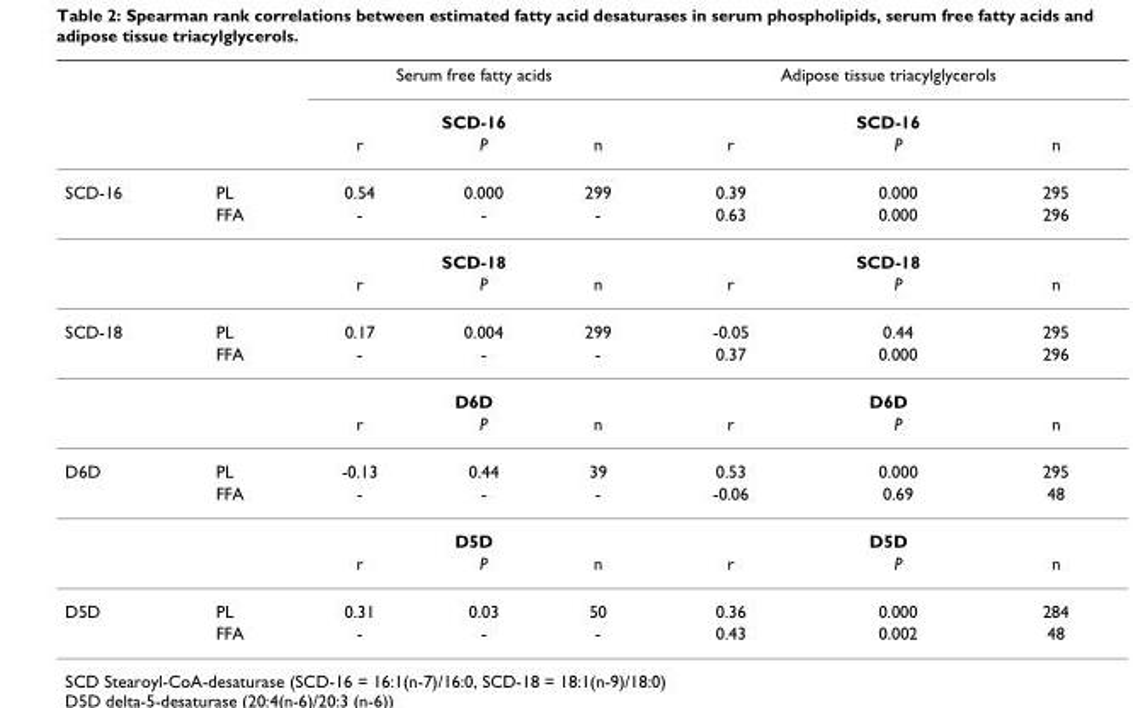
<table><thead><tr><td rowspan="3"></td><td rowspan="3"></td><td rowspan="2" colspan="3">Serum free fatty acids SCD-16</td><td rowspan="2" colspan="3">Adipose tissue triacylglycerols SCD-16</td></tr><tr></tr><tr><td>r</td><td>P</td><td>n</td><td>r</td><td>P</td><td>n</td></tr></thead><tbody><tr><td rowspan="4">SCD-16</td><td>PL</td><td>0.54</td><td>0.000</td><td>299</td><td>0.39</td><td>0.000</td><td>295</td></tr><tr><td>FFA</td><td>-</td><td>-</td><td>-</td><td>0.63</td><td>0.000</td><td>296</td></tr><tr><td></td><td colspan="3">SCD-18</td><td colspan="3">SCD-18</td></tr><tr><td></td><td>r</td><td>P</td><td>n</td><td>r</td><td>P</td><td>n</td></tr><tr><td rowspan="4">SCD-18</td><td>PL</td><td>0.17</td><td>0.004</td><td>299</td><td>-0.05</td><td>0.44</td><td>295</td></tr><tr><td>FFA</td><td>-</td><td>-</td><td>-</td><td>0.37</td><td>0.000</td><td>296</td></tr><tr><td></td><td colspan="3">D6D</td><td colspan="3">D6D</td></tr><tr><td></td><td>r</td><td>P</td><td>n</td><td>r</td><td>P</td><td>n</td></tr><tr><td rowspan="4">D6D</td><td>PL</td><td>-0.13</td><td>0.44</td><td>39</td><td>0.53</td><td>0.000</td><td>295</td></tr><tr><td>FFA</td><td>-</td><td>-</td><td>-</td><td>-0.06</td><td>0.69</td><td>48</td></tr><tr><td></td><td colspan="3">D5D</td><td colspan="3">D5D</td></tr><tr><td></td><td>r</td><td>P</td><td>n</td><td>r</td><td>P</td><td>n</td></tr><tr><td rowspan="2">D5D</td><td>PL</td><td>0.31</td><td>0.03</td><td>50</td><td>0.36</td><td>0.000</td><td>284</td></tr><tr><td>FFA</td><td>-</td><td>-</td><td>-</td><td>0.43</td><td>0.002</td><td>48</td></tr></tbody></table>